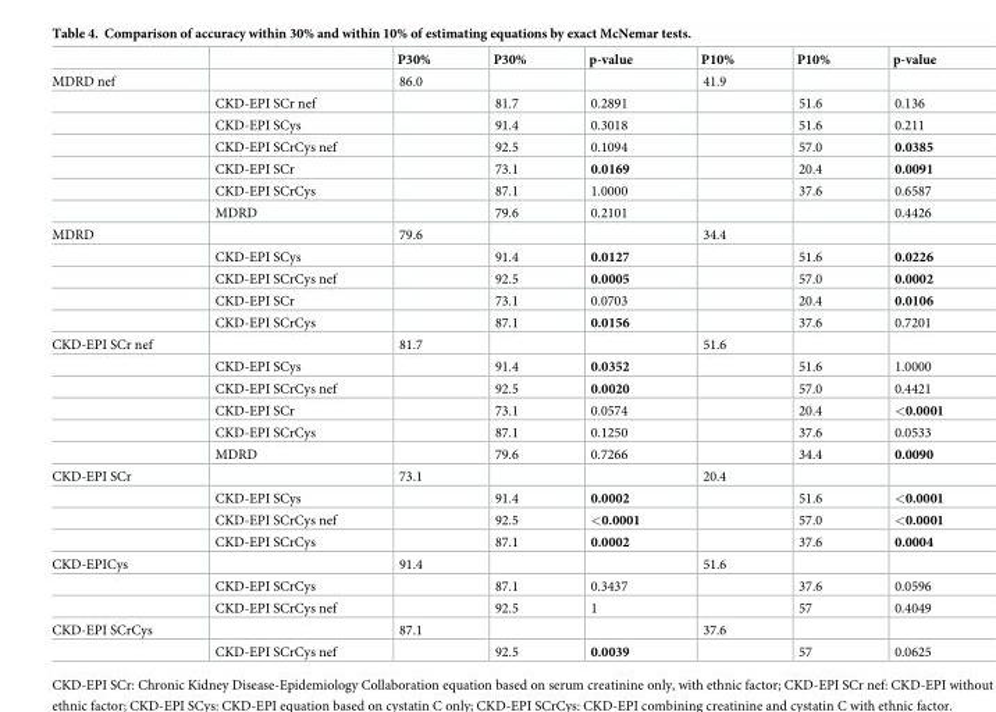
<table><thead><tr><td></td><td></td><td>P30%</td><td>P30%</td><td>p-value</td><td>P10%</td><td>P10%</td><td>p-value</td></tr></thead><tbody><tr><td rowspan="7">MDRD nef</td><td></td><td>86.0</td><td></td><td></td><td>41.9</td><td></td><td></td></tr><tr><td>CKD-EPI SCr nef</td><td></td><td>81.7</td><td>0.2891</td><td></td><td>51.6</td><td>0.136</td></tr><tr><td>CKD-EPI SCys</td><td></td><td>91.4</td><td>0.3018</td><td></td><td>51.6</td><td>0.211</td></tr><tr><td>CKD-EPI SCrCys nef</td><td></td><td>92.5</td><td>0.1094</td><td></td><td>57.0</td><td>0.0385</td></tr><tr><td>CKD-EPI SCr</td><td></td><td>73.1</td><td>0.0169</td><td></td><td>20.4</td><td>0.0091</td></tr><tr><td>CKD-EPI SCrCys</td><td></td><td>87.1</td><td>1.0000</td><td></td><td>37.6</td><td>0.6587</td></tr><tr><td>MDRD</td><td></td><td>79.6</td><td>0.2101</td><td></td><td></td><td>0.4426</td></tr><tr><td rowspan="5">MDRD</td><td></td><td>79.6</td><td></td><td></td><td>34.4</td><td></td><td></td></tr><tr><td>CKD-EPI SCys</td><td></td><td>91.4</td><td>0.0127</td><td></td><td>51.6</td><td>0.0226</td></tr><tr><td>CKD-EPI SCrCys nef</td><td></td><td>92.5</td><td>0.0005</td><td></td><td>57.0</td><td>0.0002</td></tr><tr><td>CKD-EPI SCr</td><td></td><td>73.1</td><td>0.0703</td><td></td><td>20.4</td><td>0.0106</td></tr><tr><td>CKD-EPI SCrCys</td><td></td><td>87.1</td><td>0.0156</td><td></td><td>37.6</td><td>0.7201</td></tr><tr><td rowspan="6">CKD-EPI SCr nef</td><td></td><td>81.7</td><td></td><td></td><td>51.6</td><td></td><td></td></tr><tr><td>CKD-EPI SCys</td><td></td><td>91.4</td><td>0.0352</td><td></td><td>51.6</td><td>1.0000</td></tr><tr><td>CKD-EPI SCrCys nef</td><td></td><td>92.5</td><td>0.0020</td><td></td><td>57.0</td><td>0.4421</td></tr><tr><td>CKD-EPI SCr</td><td></td><td>73.1</td><td>0.0574</td><td></td><td>20.4</td><td>&lt;0.0001</td></tr><tr><td>CKD-EPI SCrCys</td><td></td><td>87.1</td><td>0.1250</td><td></td><td>37.6</td><td>0.0533</td></tr><tr><td>MDRD</td><td></td><td>79.6</td><td>0.7266</td><td></td><td>34.4</td><td>0.0090</td></tr><tr><td rowspan="4">CKD-EPI SCr</td><td></td><td>73.1</td><td></td><td></td><td>20.4</td><td></td><td></td></tr><tr><td>CKD-EPI SCys</td><td></td><td>91.4</td><td>0.0002</td><td></td><td>51.6</td><td>&lt;0.0001</td></tr><tr><td>CKD-EPI SCrCys nef</td><td></td><td>92.5</td><td>&lt;0.0001</td><td></td><td>57.0</td><td>&lt;0.0001</td></tr><tr><td>CKD-EPI SCrCys</td><td></td><td>87.1</td><td>0.0002</td><td></td><td>37.6</td><td>0.0004</td></tr><tr><td rowspan="3">CKD-EPICys</td><td></td><td>91.4</td><td></td><td></td><td>51.6</td><td></td><td></td></tr><tr><td>CKD-EPI SCrCys</td><td></td><td>87.1</td><td>0.3437</td><td></td><td>37.6</td><td>0.0596</td></tr><tr><td>CKD-EPI SCrCys nef</td><td></td><td>92.5</td><td>1</td><td></td><td>57</td><td>0.4049</td></tr><tr><td rowspan="2">CKD-EPI SCrCys</td><td></td><td>87.1</td><td></td><td></td><td>37.6</td><td></td><td></td></tr><tr><td>CKD-EPI SCrCys nef</td><td></td><td>92.5</td><td>0.0039</td><td></td><td>57</td><td>0.0625</td></tr></tbody></table>